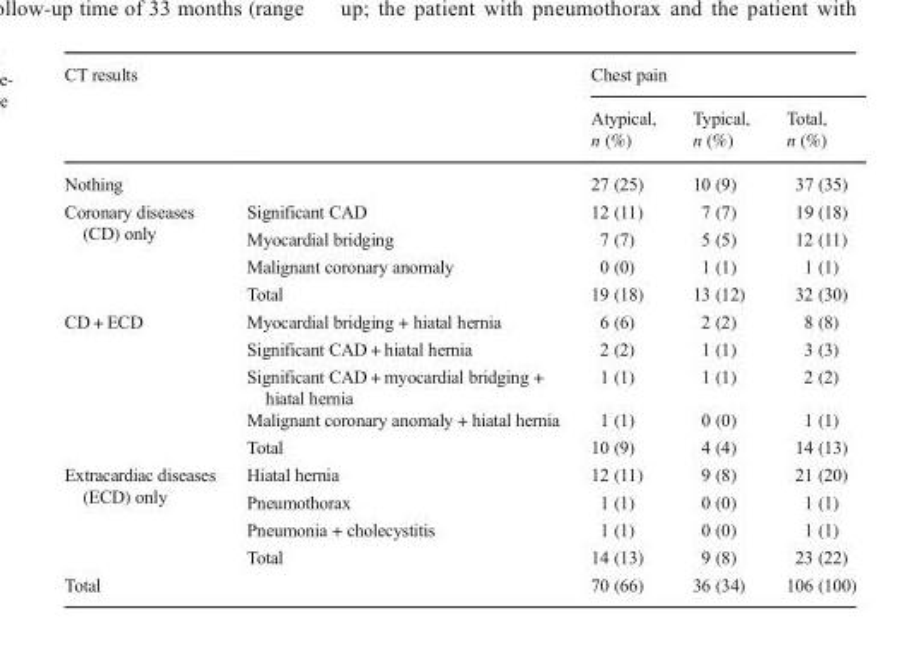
<table><thead><tr><td rowspan="2">CT results</td><td rowspan="2"></td><td colspan="3">Chest pain</td></tr><tr><td>Atypical, n (%)</td><td>Typical, n (%)</td><td>Total, n (%)</td></tr></thead><tbody><tr><td>Nothing</td><td></td><td>27 (25)</td><td>10 (9)</td><td>37 (35)</td></tr><tr><td rowspan="4">Coronary diseases (CD) only</td><td>Significant CAD</td><td>12 (11)</td><td>7 (7)</td><td>19 (18)</td></tr><tr><td>Myocardial bridging</td><td>7 (7)</td><td>5 (5)</td><td>12 (11)</td></tr><tr><td>Malignant coronary anomaly</td><td>0 (0)</td><td>1 (1)</td><td>1 (1)</td></tr><tr><td>Total</td><td>19 (18)</td><td>13 (12)</td><td>32 (30)</td></tr><tr><td rowspan="5">CD + ECD</td><td>Myocardial bridging + hiatal hernia</td><td>6 (6)</td><td>2 (2)</td><td>8 (8)</td></tr><tr><td>Significant CAD + hiatal hernia</td><td>2 (2)</td><td>1 (1)</td><td>3 (3)</td></tr><tr><td>Significant CAD + myocardial bridging + hiatal hernia</td><td>1 (1)</td><td>1 (1)</td><td>2 (2)</td></tr><tr><td>Malignant coronary anomaly + hiatal hernia</td><td>1 (1)</td><td>0 (0)</td><td>1 (1)</td></tr><tr><td>Total</td><td>10 (9)</td><td>4 (4)</td><td>14 (13)</td></tr><tr><td rowspan="4">Extracardiac diseases (ECD) only</td><td>Hiatal hernia</td><td>12 (11)</td><td>9 (8)</td><td>21 (20)</td></tr><tr><td>Pneumothorax</td><td>1 (1)</td><td>0 (0)</td><td>1 (1)</td></tr><tr><td>Pneumonia + cholecystitis</td><td>1 (1)</td><td>0 (0)</td><td>1 (1)</td></tr><tr><td>Total</td><td>14 (13)</td><td>9 (8)</td><td>23 (22)</td></tr><tr><td>Total</td><td></td><td>70 (66)</td><td>36 (34)</td><td>106 (100)</td></tr></tbody></table>